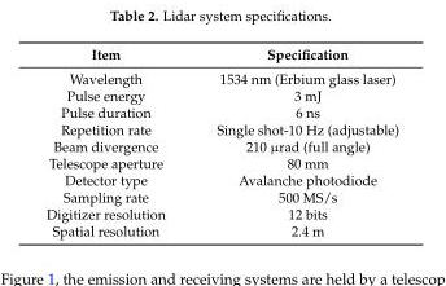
<table><thead><tr><td>Item</td><td>Specification</td></tr></thead><tbody><tr><td>Wavelength</td><td>1534 nm (Erbium glass laser)</td></tr><tr><td>Pulse energy</td><td>3 mJ</td></tr><tr><td>Pulse duration</td><td>6 ns</td></tr><tr><td>Repetition rate</td><td>Single shot-10 Hz (adjustable)</td></tr><tr><td>Beam divergence</td><td>210 µrad (full angle)</td></tr><tr><td>Telescope aperture</td><td>80 mm</td></tr><tr><td>Detector type</td><td>Avalanche photodiode</td></tr><tr><td>Sampling rate</td><td>500 MS/s</td></tr><tr><td>Digitizer resolution</td><td>12 bits</td></tr><tr><td>Spatial resolution</td><td>2.4 m</td></tr></tbody></table>